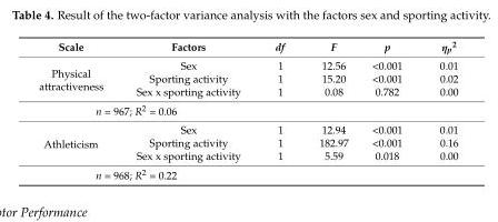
<table><thead><tr><td>Scale</td><td>Factors</td><td>df</td><td>F</td><td>p</td><td>η<sub>p</sub><sup>2</sup></td></tr></thead><tbody><tr><td rowspan="3">Physical attractiveness</td><td>Sex</td><td>1</td><td>12.56</td><td>&lt;0.001</td><td>0.01</td></tr><tr><td>Sporting activity</td><td>1</td><td>15.20</td><td>&lt;0.001</td><td>0.02</td></tr><tr><td>Sex x sporting activity</td><td>1</td><td>0.08</td><td>0.782</td><td>0.00</td></tr><tr><td colspan="6">n = 967; R<sup>2</sup> = 0.06</td></tr><tr><td rowspan="3">Athleticism</td><td>Sex</td><td>1</td><td>12.94</td><td>&lt;0.001</td><td>0.01</td></tr><tr><td>Sporting activity</td><td>1</td><td>182.97</td><td>&lt;0.001</td><td>0.16</td></tr><tr><td>Sex x sporting activity</td><td>1</td><td>5.59</td><td>0.018</td><td>0.00</td></tr><tr><td colspan="2">n = 968; R<sup>2</sup> = 0.22</td><td></td><td></td><td></td><td></td></tr></tbody></table>